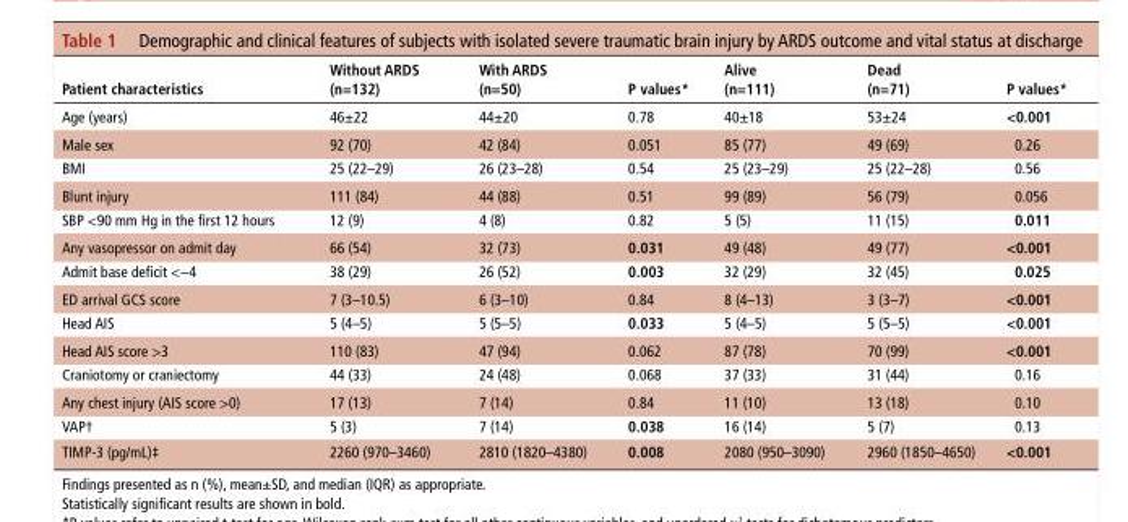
<table><thead><tr><td>Patient characteristics</td><td>Without Ards (n=132)</td><td>With Ards (n=50)</td><td>P values*</td><td>Alive (n=111)</td><td>dead (n=71)</td><td>P values*</td></tr></thead><tbody><tr><td>Age (years)</td><td>46±22</td><td>44±20</td><td>0.78</td><td>40±18</td><td>53±24</td><td>&lt;0.001</td></tr><tr><td>Male sex</td><td>92 (70)</td><td>42 (84)</td><td>0.051</td><td>85 (77)</td><td>49 (69)</td><td>0.26</td></tr><tr><td>BMI</td><td>25 (22–29)</td><td>26 (23–28)</td><td>0.54</td><td>25 (23–29)</td><td>25 (22–28)</td><td>0.56</td></tr><tr><td>Blunt injury</td><td>111 (84)</td><td>44 (88)</td><td>0.51</td><td>99 (89)</td><td>56 (79)</td><td>0.056</td></tr><tr><td>SBP &lt;90 mm Hg in the first 12 hours</td><td>12 (9)</td><td>4 (8)</td><td>0.82</td><td>5 (5)</td><td>11 (15)</td><td>0.011</td></tr><tr><td>Any vasopressor on admit day</td><td>66 (54)</td><td>32 (73)</td><td>0.031</td><td>49 (48)</td><td>49 (77)</td><td>&lt;0.001</td></tr><tr><td>Admit base deficit &lt;−4</td><td>38 (29)</td><td>26 (52)</td><td>0.003</td><td>32 (29)</td><td>32 (45)</td><td>0.025</td></tr><tr><td>ED arrival GCS score</td><td>7 (3–10.5)</td><td>6 (3–10)</td><td>0.84</td><td>8 (4–13)</td><td>3 (3–7)</td><td>&lt;0.001</td></tr><tr><td>Head AIS</td><td>5 (4–5)</td><td>5 (5–5)</td><td>0.033</td><td>5 (4–5)</td><td>5 (5–5)</td><td>&lt;0.001</td></tr><tr><td>Head AIS score &gt;3</td><td>110 (83)</td><td>47 (94)</td><td>0.062</td><td>87 (78)</td><td>70 (99)</td><td>&lt;0.001</td></tr><tr><td>Craniotomy or craniectomy</td><td>44 (33)</td><td>24 (48)</td><td>0.068</td><td>37 (33)</td><td>31 (44)</td><td>0.16</td></tr><tr><td>Any chest injury (AIS score &gt;0)</td><td>17 (13)</td><td>7 (14)</td><td>0.84</td><td>11 (10)</td><td>13 (18)</td><td>0.10</td></tr><tr><td>VAP†</td><td>5 (3)</td><td>7 (14)</td><td>0.038</td><td>16 (14)</td><td>5 (7)</td><td>0.13</td></tr><tr><td>TIMP-3 (pg/mL)‡</td><td>2260 (970–3460)</td><td>2810 (1820–4380)</td><td>0.008</td><td>2080 (950–3090)</td><td>2960 (1850–4650)</td><td>&lt;0.001</td></tr></tbody></table>